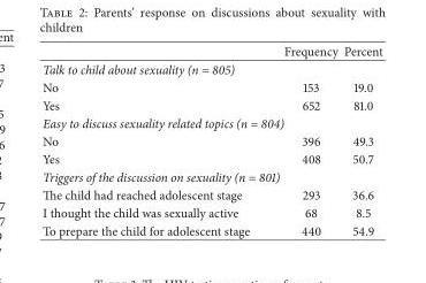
<table><thead><tr><td></td><td>Frequency</td><td>Percent</td></tr></thead><tbody><tr><td colspan="3">Talk to child about sexuality (n = 805)</td></tr><tr><td>No</td><td>153</td><td>19.0</td></tr><tr><td>Yes</td><td>652</td><td>81.0</td></tr><tr><td colspan="3">Easy to discuss sexuality related topics (n = 804)</td></tr><tr><td>No</td><td>396</td><td>49.3</td></tr><tr><td>Yes</td><td>408</td><td>50.7</td></tr><tr><td colspan="3">Triggers of the discussion on sexuality (n = 801)</td></tr><tr><td>The child had reached adolescent stage</td><td>293</td><td>36.6</td></tr><tr><td>I thought the child was sexually active</td><td>68</td><td>8.5</td></tr><tr><td>To prepare the child for adolescent stage</td><td>440</td><td>54.9</td></tr></tbody></table>